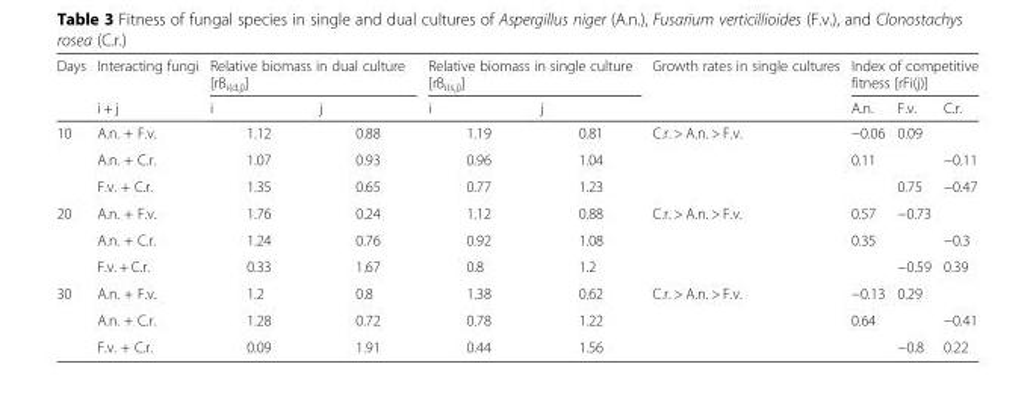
<table><thead><tr><td rowspan="2">Days</td><td rowspan="2">Interacting fungi i + j</td><td colspan="2">Relative biomass in dual culture [rB<sub>i(d,j)</sub>]</td><td colspan="2">Relative biomass in single culture [rB<sub>i(s,j)</sub>]</td><td rowspan="2">Growth rates in single cultures</td><td colspan="3">Index of competitive fitness [rFi(j)]</td></tr><tr><td>i</td><td>j</td><td>i</td><td>j</td><td>A.n.</td><td>F.v.</td><td>C.r.</td></tr></thead><tbody><tr><td rowspan="3">10</td><td>A.n. + F.v.</td><td>1.12</td><td>0.88</td><td>1.19</td><td>0.81</td><td>C.r. &gt; A.n. &gt; F.v.</td><td>−0.06</td><td>0.09</td><td></td></tr><tr><td>A.n. + C.r.</td><td>1.07</td><td>0.93</td><td>0.96</td><td>1.04</td><td></td><td>0.11</td><td></td><td>−0.11</td></tr><tr><td>F.v. + C.r.</td><td>1.35</td><td>0.65</td><td>0.77</td><td>1.23</td><td></td><td></td><td>0.75</td><td>−0.47</td></tr><tr><td rowspan="3">20</td><td>A.n. + F.v.</td><td>1.76</td><td>0.24</td><td>1.12</td><td>0.88</td><td>C.r. &gt; A.n. &gt; F.v.</td><td>0.57</td><td>−0.73</td><td></td></tr><tr><td>A.n. + C.r.</td><td>1.24</td><td>0.76</td><td>0.92</td><td>1.08</td><td></td><td>0.35</td><td></td><td>−0.3</td></tr><tr><td>F.v. + C.r.</td><td>0.33</td><td>1.67</td><td>0.8</td><td>1.2</td><td></td><td></td><td>−0.59</td><td>0.39</td></tr><tr><td rowspan="3">30</td><td>A.n. + F.v.</td><td>1.2</td><td>0.8</td><td>1.38</td><td>0.62</td><td>C.r. &gt; A.n. &gt; F.v.</td><td>−0.13</td><td>0.29</td><td></td></tr><tr><td>A.n. + C.r.</td><td>1.28</td><td>0.72</td><td>0.78</td><td>1.22</td><td></td><td>0.64</td><td></td><td>−0.41</td></tr><tr><td>F.v. + C.r.</td><td>0.09</td><td>1.91</td><td>0.44</td><td>1.56</td><td></td><td></td><td>−0.8</td><td>0.22</td></tr></tbody></table>